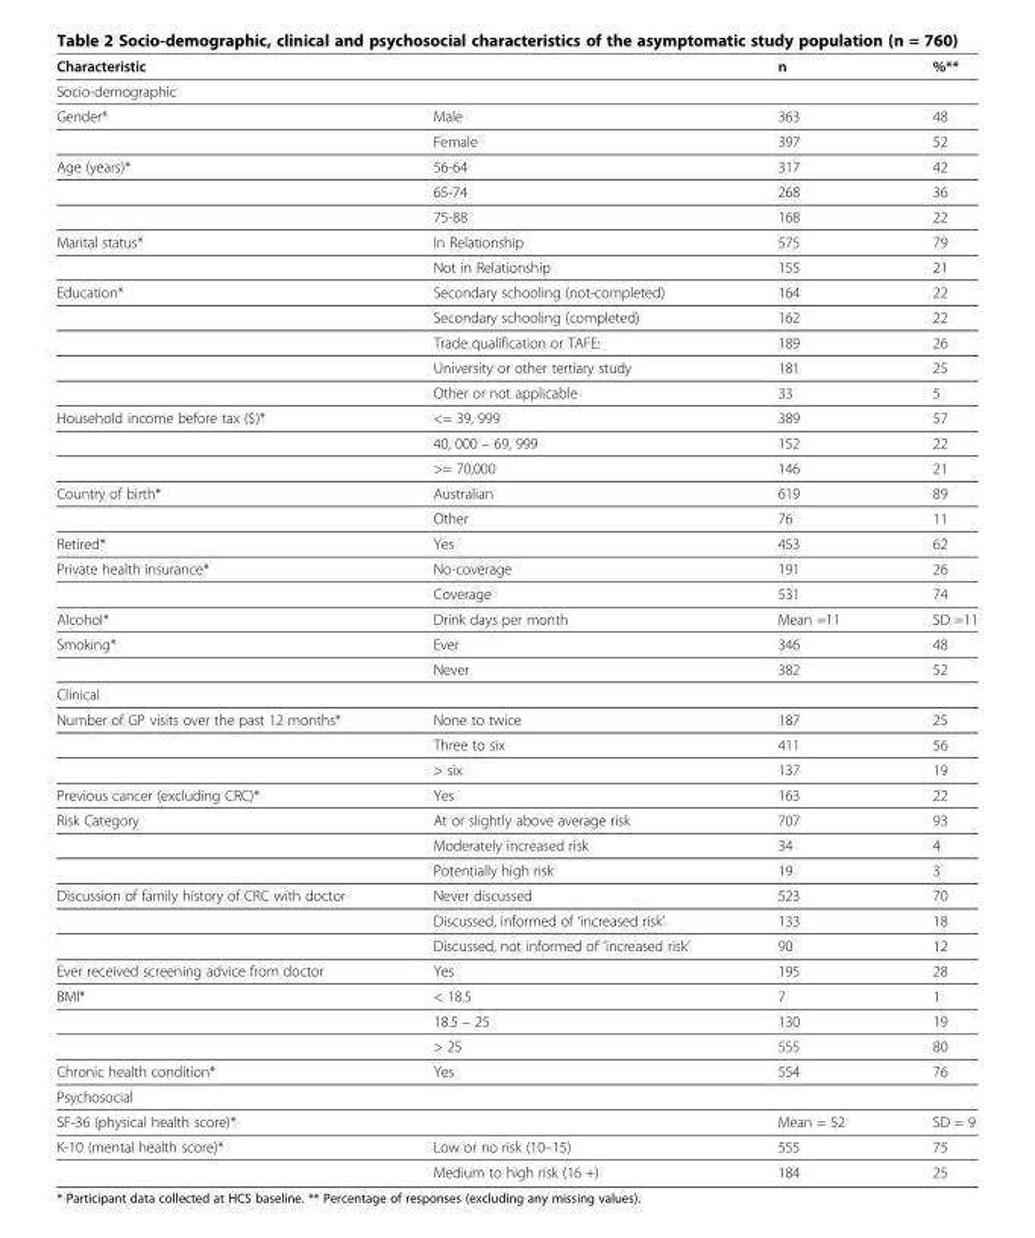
<table><thead><tr><td>Characteristic</td><td></td><td>n</td><td>%**</td></tr></thead><tbody><tr><td colspan="4">Socio-demographic</td></tr><tr><td rowspan="2">Gender*</td><td>Male</td><td>363</td><td>48</td></tr><tr><td>Female</td><td>397</td><td>52</td></tr><tr><td rowspan="3">Age (years)*</td><td>56-64</td><td>317</td><td>42</td></tr><tr><td>65-74</td><td>268</td><td>36</td></tr><tr><td>75-88</td><td>168</td><td>22</td></tr><tr><td rowspan="2">Marital status*</td><td>In Relationship</td><td>575</td><td>79</td></tr><tr><td>Not in Relationship</td><td>155</td><td>21</td></tr><tr><td rowspan="5">Education*</td><td>Secondary schooling (not-completed)</td><td>164</td><td>22</td></tr><tr><td>Secondary schooling (completed)</td><td>162</td><td>22</td></tr><tr><td>Trade qualification or TAFE:</td><td>189</td><td>26</td></tr><tr><td>University or other tertiary study</td><td>181</td><td>25</td></tr><tr><td>Other or not applicable</td><td>33</td><td>5</td></tr><tr><td rowspan="3">Household income before tax ($)*</td><td>&lt;= 39, 999</td><td>389</td><td>57</td></tr><tr><td>40, 000 – 69, 999</td><td>152</td><td>22</td></tr><tr><td>&gt;= 70,000</td><td>146</td><td>21</td></tr><tr><td rowspan="2">Country of birth*</td><td>Australian</td><td>619</td><td>89</td></tr><tr><td>Other</td><td>76</td><td>11</td></tr><tr><td>Retired*</td><td>Yes</td><td>453</td><td>62</td></tr><tr><td rowspan="2">Private health insurance*</td><td>No-coverage</td><td>191</td><td>26</td></tr><tr><td>Coverage</td><td>531</td><td>74</td></tr><tr><td>Alcohol*</td><td>Drink days per month</td><td>Mean =11</td><td>SD =11</td></tr><tr><td rowspan="2">Smoking*</td><td>Ever</td><td>346</td><td>48</td></tr><tr><td>Never</td><td>382</td><td>52</td></tr><tr><td colspan="4">Clinical</td></tr><tr><td rowspan="3">Number of GP visits over the past 12 months*</td><td>None to twice</td><td>187</td><td>25</td></tr><tr><td>Three to six</td><td>411</td><td>56</td></tr><tr><td>&gt; six</td><td>137</td><td>19</td></tr><tr><td>Previous cancer (excluding CRC)*</td><td>Yes</td><td>163</td><td>22</td></tr><tr><td rowspan="3">Risk Category</td><td>At or slightly above average risk</td><td>707</td><td>93</td></tr><tr><td>Moderately increased risk</td><td>34</td><td>4</td></tr><tr><td>Potentially high risk</td><td>19</td><td>3</td></tr><tr><td rowspan="3">Discussion of family history of CRC with doctor</td><td>Never discussed</td><td>523</td><td>70</td></tr><tr><td>Discussed, informed of ‘increased risk’</td><td>133</td><td>18</td></tr><tr><td>Discussed, not informed of ‘increased risk’</td><td>90</td><td>12</td></tr><tr><td>Ever received screening advice from doctor</td><td>Yes</td><td>195</td><td>28</td></tr><tr><td rowspan="3">BMI*</td><td>&lt; 18.5</td><td>7</td><td>1</td></tr><tr><td>18.5 – 25</td><td>130</td><td>19</td></tr><tr><td>&gt; 25</td><td>555</td><td>80</td></tr><tr><td>Chronic health condition*</td><td>Yes</td><td>554</td><td>76</td></tr><tr><td colspan="4">Psychosocial</td></tr><tr><td>SF-36 (physical health score)*</td><td></td><td>Mean = 52</td><td>SD = 9</td></tr><tr><td rowspan="2">K-10 (mental health score)*</td><td>Low or no risk (10–15)</td><td>555</td><td>75</td></tr><tr><td>Medium to high risk (16 +)</td><td>184</td><td>25</td></tr></tbody></table>